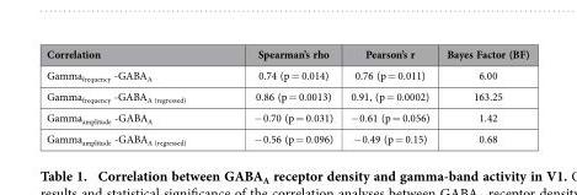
<table><thead><tr><td>Correlation</td><td>Spearman’s rho</td><td>Pearson’s r</td><td>Bayes Factor (BF)</td></tr></thead><tbody><tr><td>Gamma<sub>frequency</sub> -GABA<sub>A</sub></td><td>0.74 (p = 0.014)</td><td>0.76 (p = 0.011)</td><td>6.00</td></tr><tr><td>Gamma<sub>frequency</sub> -GABA<sub>A (regressed)</sub></td><td>0.86 (p = 0.0013)</td><td>0.91, (p = 0.0002)</td><td>163.25</td></tr><tr><td>Gamma<sub>amplitude</sub> -GABA<sub>A</sub></td><td>− 0.70 (p = 0.031)</td><td>− 0.61 (p = 0.056)</td><td>1.42</td></tr><tr><td>Gamma<sub>amplitude</sub> -GABA<sub>A (regressed)</sub></td><td>− 0.56 (p = 0.096)</td><td>− 0.49 (p = 0.15)</td><td>0.68</td></tr></tbody></table>